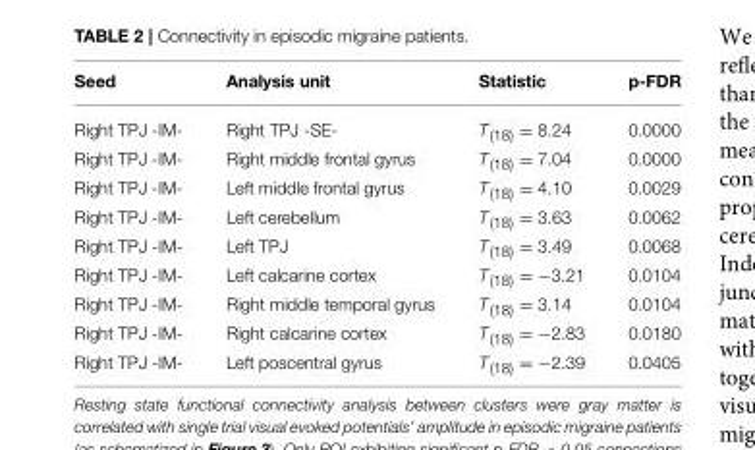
<table><thead><tr><td>Seed</td><td>Analysis unit</td><td>Statistic</td><td>p-FDR</td></tr></thead><tbody><tr><td>Right TPJ -IM-</td><td>Right TPJ -SE-</td><td>T<sub>(18)</sub> = 8.24</td><td>0.0000</td></tr><tr><td>Right TPJ -IM-</td><td>Right middle frontal gyrus</td><td>T<sub>(18)</sub> = 7.04</td><td>0.0000</td></tr><tr><td>Right TPJ -IM-</td><td>Left middle frontal gyrus</td><td>T<sub>(18)</sub> = 4.10</td><td>0.0029</td></tr><tr><td>Right TPJ -IM-</td><td>Left cerebellum</td><td>T<sub>(18)</sub> = 3.63</td><td>0.0062</td></tr><tr><td>Right TPJ -IM-</td><td>Left TPJ</td><td>T<sub>(18)</sub> = 3.49</td><td>0.0068</td></tr><tr><td>Right TPJ -IM-</td><td>Left calcarine cortex</td><td>T<sub>(18)</sub> = −3.21</td><td>0.0104</td></tr><tr><td>Right TPJ -IM-</td><td>Right middle temporal gyrus</td><td>T<sub>(18)</sub> = 3.14</td><td>0.0104</td></tr><tr><td>Right TPJ -IM-</td><td>Right calcarine cortex</td><td>T<sub>(18)</sub> = −2.83</td><td>0.0180</td></tr><tr><td>Right TPJ -IM-</td><td>Left poscentral gyrus</td><td>T<sub>(18)</sub> = −2.39</td><td>0.0405</td></tr></tbody></table>